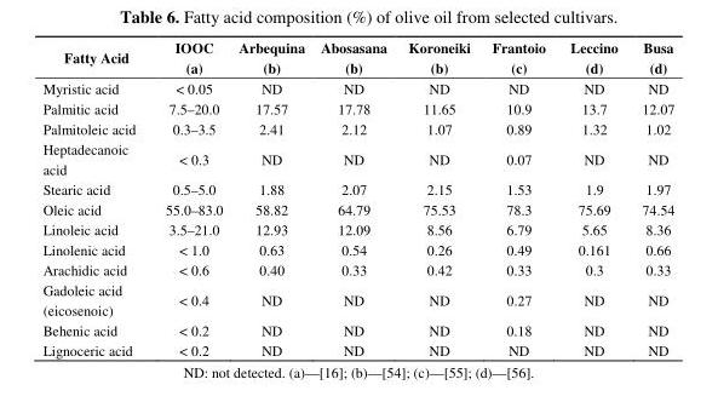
<table><thead><tr><td>Fatty Acid</td><td>IOOC (a)</td><td>Arbequina (b)</td><td>Abosasana (b)</td><td>Koroneiki (b)</td><td>Frantoio (c)</td><td>Leccino (d)</td><td>Busa (d)</td></tr></thead><tbody><tr><td>Myristic acid</td><td>&lt; 0.05</td><td>ND</td><td>ND</td><td>ND</td><td>ND</td><td>ND</td><td>ND</td></tr><tr><td>Palmitic acid</td><td>7.5–20.0</td><td>17.57</td><td>17.78</td><td>11.65</td><td>10.9</td><td>13.7</td><td>12.07</td></tr><tr><td>Palmitoleic acid</td><td>0.3–3.5</td><td>2.41</td><td>2.12</td><td>1.07</td><td>0.89</td><td>1.32</td><td>1.02</td></tr><tr><td>Heptadecanoic acid</td><td>&lt; 0.3</td><td>ND</td><td>ND</td><td>ND</td><td>0.07</td><td>ND</td><td>ND</td></tr><tr><td>Stearic acid</td><td>0.5–5.0</td><td>1.88</td><td>2.07</td><td>2.15</td><td>1.53</td><td>1.9</td><td>1.97</td></tr><tr><td>Oleic acid</td><td>55.0–83.0</td><td>58.82</td><td>64.79</td><td>75.53</td><td>78.3</td><td>75.69</td><td>74.54</td></tr><tr><td>Linoleic acid</td><td>3.5–21.0</td><td>12.93</td><td>12.09</td><td>8.56</td><td>6.79</td><td>5.65</td><td>8.36</td></tr><tr><td>Linolenic acid</td><td>&lt; 1.0</td><td>0.63</td><td>0.54</td><td>0.26</td><td>0.49</td><td>0.161</td><td>0.66</td></tr><tr><td>Arachidic acid</td><td>&lt; 0.6</td><td>0.40</td><td>0.33</td><td>0.42</td><td>0.33</td><td>0.3</td><td>0.33</td></tr><tr><td>Gadoleic acid (eicosenoic)</td><td>&lt; 0.4</td><td>ND</td><td>ND</td><td>ND</td><td>0.27</td><td>ND</td><td>ND</td></tr><tr><td>Behenic acid</td><td>&lt; 0.2</td><td>ND</td><td>ND</td><td>ND</td><td>0.18</td><td>ND</td><td>ND</td></tr><tr><td>Lignoceric acid</td><td>&lt; 0.2</td><td>ND</td><td>ND</td><td>ND</td><td>ND</td><td>ND</td><td>ND</td></tr></tbody></table>